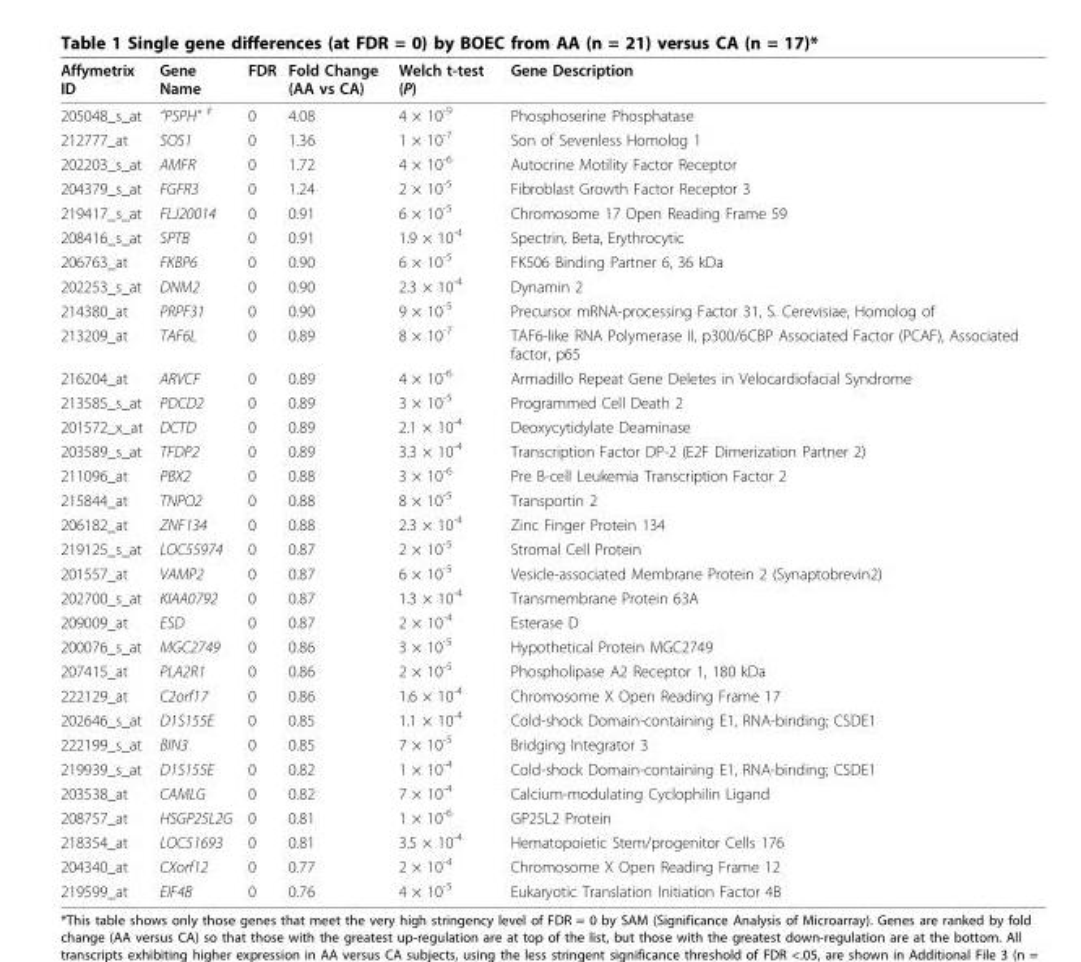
<table><thead><tr><td>Affymetrix ID</td><td>Gene Name</td><td>FDR</td><td>Fold Change (AA vs CA)</td><td>Welch t-test (P)</td><td>Gene Description</td></tr></thead><tbody><tr><td>205048_s_at</td><td>“PSPH” ‡</td><td>0</td><td>4.08</td><td>4 × 10<sup>-9</sup></td><td>Phosphoserine Phosphatase</td></tr><tr><td>212777_at</td><td>SOS1</td><td>0</td><td>1.36</td><td>1 × 10<sup>-7</sup></td><td>Son of Sevenless Homolog 1</td></tr><tr><td>202203_s_at</td><td>AMFR</td><td>0</td><td>1.72</td><td>4 × 10<sup>-6</sup></td><td>Autocrine Motility Factor Receptor</td></tr><tr><td>204379_s_at</td><td>FGFR3</td><td>0</td><td>1.24</td><td>2 × 10<sup>-5</sup></td><td>Fibroblast Growth Factor Receptor 3</td></tr><tr><td>219417_s_at</td><td>FLJ20014</td><td>0</td><td>0.91</td><td>6 × 10<sup>-5</sup></td><td>Chromosome 17 Open Reading Frame 59</td></tr><tr><td>208416_s_at</td><td>SPTB</td><td>0</td><td>0.91</td><td>1.9 × 10<sup>-4</sup></td><td>Spectrin, Beta, Erythrocytic</td></tr><tr><td>206763_at</td><td>FKBP6</td><td>0</td><td>0.90</td><td>6 × 10<sup>-5</sup></td><td>FK506 Binding Partner 6, 36 kDa</td></tr><tr><td>202253_s_at</td><td>DNM2</td><td>0</td><td>0.90</td><td>2.3 × 10<sup>-4</sup></td><td>Dynamin 2</td></tr><tr><td>214380_at</td><td>PRPF31</td><td>0</td><td>0.90</td><td>9 × 10<sup>-5</sup></td><td>Precursor mRNA-processing Factor 31, S. Cerevisiae, Homolog of</td></tr><tr><td>213209_at</td><td>TAF6L</td><td>0</td><td>0.89</td><td>8 × 10<sup>-7</sup></td><td>TAF6-like RNA Polymerase II, p300/6CBP Associated Factor (PCAF), Associated factor, p65</td></tr><tr><td>216204_at</td><td>ARVCF</td><td>0</td><td>0.89</td><td>4 × 10<sup>-6</sup></td><td>Armadillo Repeat Gene Deletes in Velocardiofacial Syndrome</td></tr><tr><td>213585_s_at</td><td>PDCD2</td><td>0</td><td>0.89</td><td>3 × 10<sup>-5</sup></td><td>Programmed Cell Death 2</td></tr><tr><td>201572_x_at</td><td>DCTD</td><td>0</td><td>0.89</td><td>2.1 × 10<sup>-4</sup></td><td>Deoxycytidylate Deaminase</td></tr><tr><td>203589_s_at</td><td>TFDP2</td><td>0</td><td>0.89</td><td>3.3 × 10<sup>-4</sup></td><td>Transcription Factor DP-2 (E2F Dimerization Partner 2)</td></tr><tr><td>211096_at</td><td>PBX2</td><td>0</td><td>0.88</td><td>3 × 10<sup>-6</sup></td><td>Pre B-cell Leukemia Transcription Factor 2</td></tr><tr><td>215844_at</td><td>TNPO2</td><td>0</td><td>0.88</td><td>8 × 10<sup>-5</sup></td><td>Transportin 2</td></tr><tr><td>206182_at</td><td>ZNF134</td><td>0</td><td>0.88</td><td>2.3 × 10<sup>-4</sup></td><td>Zinc Finger Protein 134</td></tr><tr><td>219125_s_at</td><td>LOC55974</td><td>0</td><td>0.87</td><td>2 × 10<sup>-5</sup></td><td>Stromal Cell Protein</td></tr><tr><td>201557_at</td><td>VAMP2</td><td>0</td><td>0.87</td><td>6 × 10<sup>-5</sup></td><td>Vesicle-associated Membrane Protein 2 (Synaptobrevin2)</td></tr><tr><td>202700_s_at</td><td>KIAA0792</td><td>0</td><td>0.87</td><td>1.3 × 10<sup>-4</sup></td><td>Transmembrane Protein 63A</td></tr><tr><td>209009_at</td><td>ESD</td><td>0</td><td>0.87</td><td>2 × 10<sup>-4</sup></td><td>Esterase D</td></tr><tr><td>200076_s_at</td><td>MGC2749</td><td>0</td><td>0.86</td><td>3 × 10<sup>-5</sup></td><td>Hypothetical Protein MGC2749</td></tr><tr><td>207415_at</td><td>PLA2R1</td><td>0</td><td>0.86</td><td>2 × 10<sup>-5</sup></td><td>Phospholipase A2 Receptor 1, 180 kDa</td></tr><tr><td>222129_at</td><td>C2orf17</td><td>0</td><td>0.86</td><td>1.6 × 10<sup>-4</sup></td><td>Chromosome X Open Reading Frame 17</td></tr><tr><td>202646_s_at</td><td>D1S155E</td><td>0</td><td>0.85</td><td>1.1 × 10<sup>-4</sup></td><td>Cold-shock Domain-containing E1, RNA-binding; CSDE1</td></tr><tr><td>222199_s_at</td><td>BIN3</td><td>0</td><td>0.85</td><td>7 × 10<sup>-5</sup></td><td>Bridging Integrator 3</td></tr><tr><td>219939_s_at</td><td>D1S155E</td><td>0</td><td>0.82</td><td>1 × 10<sup>-4</sup></td><td>Cold-shock Domain-containing E1, RNA-binding; CSDE1</td></tr><tr><td>203538_at</td><td>CAMLG</td><td>0</td><td>0.82</td><td>7 × 10<sup>-4</sup></td><td>Calcium-modulating Cyclophilin Ligand</td></tr><tr><td>208757_at</td><td>HSGP25L2G</td><td>0</td><td>0.81</td><td>1 × 10<sup>-6</sup></td><td>GP25L2 Protein</td></tr><tr><td>218354_at</td><td>LOC51693</td><td>0</td><td>0.81</td><td>3.5 × 10<sup>-4</sup></td><td>Hematopoietic Stem/progenitor Cells 176</td></tr><tr><td>204340_at</td><td>CXorf12</td><td>0</td><td>0.77</td><td>2 × 10<sup>-4</sup></td><td>Chromosome X Open Reading Frame 12</td></tr><tr><td>219599_at</td><td>EIF4B</td><td>0</td><td>0.76</td><td>4 × 10<sup>-5</sup></td><td>Eukaryotic Translation Initiation Factor 4B</td></tr></tbody></table>